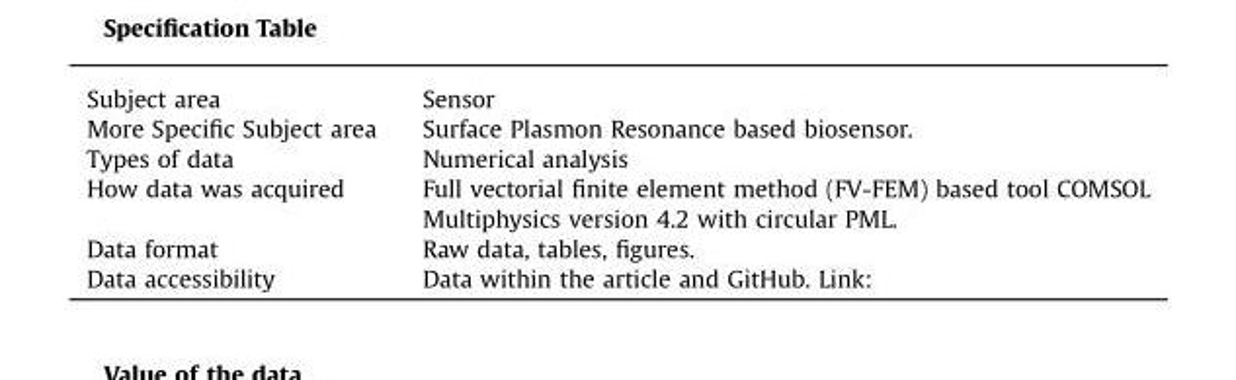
<table><thead><tr><td>Subject area</td><td>Sensor</td></tr></thead><tbody><tr><td>More Specific Subject area</td><td>Surface Plasmon Resonance based biosensor.</td></tr><tr><td>Types of data</td><td>Numerical analysis</td></tr><tr><td>How data was acquired</td><td>Full vectorial finite element method (FV-FEM) based tool COMSOL Multiphysics version 4.2 with circular PML.</td></tr><tr><td>Data format</td><td>Raw data, tables, figures.</td></tr><tr><td>Data accessibility</td><td>Data within the article and GitHub. Link:</td></tr></tbody></table>